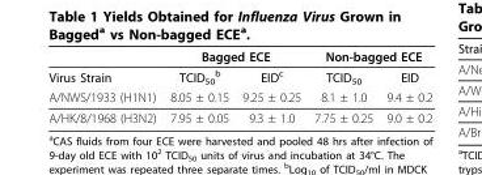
<table><thead><tr><td rowspan="2">Virus Strain</td><td colspan="2">Bagged ECE</td><td colspan="2">Non-bagged ECE</td></tr><tr><td>TCID<sub>50</sub> <sup>b</sup></td><td>EID<sup>c</sup></td><td>TCID<sub>50</sub></td><td>EID</td></tr></thead><tbody><tr><td>A/NWS/1933 (H1N1)</td><td>8.05 ± 0.15</td><td>9.25 ± 0.25</td><td>8.1 ± 1.0</td><td>9.4 ± 0.2</td></tr><tr><td>A/HK/8/1968 (H3N2)</td><td>7.95 ± 0.05</td><td>9.3 ± 1.0</td><td>7.75 ± 0.25</td><td>9.0 ± 0.2</td></tr></tbody></table>